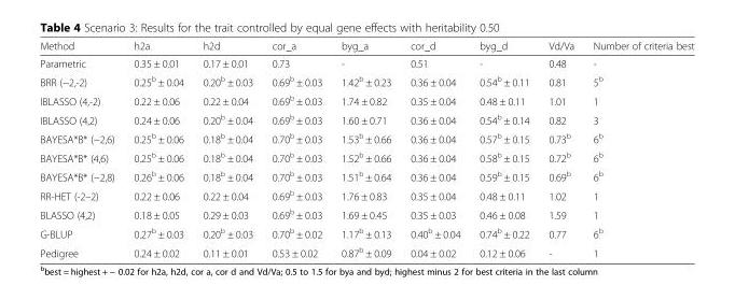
<table><thead><tr><td>Method</td><td>h2a</td><td>h2d</td><td>cor_a</td><td>byg_a</td><td>cor_d</td><td>byg_d</td><td>Vd/Va</td><td>Number of criteria best</td></tr></thead><tbody><tr><td>Parametric</td><td>0.35 ± 0.01</td><td>0.17 ± 0.01</td><td>0.73</td><td>-</td><td>0.51</td><td>-</td><td>0.48</td><td>-</td></tr><tr><td>BRR (−2,-2)</td><td>0.25<sup>b</sup> ± 0.04</td><td>0.20<sup>b</sup> ± 0.03</td><td>0.69<sup>b</sup> ± 0.03</td><td>1.42<sup>b</sup> ± 0.23</td><td>0.36 ± 0.04</td><td>0.54<sup>b</sup> ± 0.11</td><td>0.81</td><td>5<sup>b</sup></td></tr><tr><td>IBLASSO (4,-2)</td><td>0.22 ± 0.06</td><td>0.22 ± 0.04</td><td>0.69<sup>b</sup> ± 0.03</td><td>1.74 ± 0.82</td><td>0.35 ± 0.04</td><td>0.48 ± 0.11</td><td>1.01</td><td>1</td></tr><tr><td>IBLASSO (4,2)</td><td>0.24 ± 0.06</td><td>0.20<sup>b</sup> ± 0.04</td><td>0.69<sup>b</sup> ± 0.03</td><td>1.60 ± 0.71</td><td>0.36 ± 0.04</td><td>0.54<sup>b</sup> ± 0.14</td><td>0.82</td><td>3</td></tr><tr><td>BAYESA*B* (−2,6)</td><td>0.25<sup>b</sup> ± 0.06</td><td>0.18<sup>b</sup> ± 0.04</td><td>0.70<sup>b</sup> ± 0.03</td><td>1.53<sup>b</sup> ± 0.66</td><td>0.36 ± 0.04</td><td>0.57<sup>b</sup> ± 0.15</td><td>0.73<sup>b</sup></td><td>6<sup>b</sup></td></tr><tr><td>BAYESA*B* (4,6)</td><td>0.25<sup>b</sup> ± 0.06</td><td>0.18<sup>b</sup> ± 0.04</td><td>0.70<sup>b</sup> ± 0.03</td><td>1.52<sup>b</sup> ± 0.66</td><td>0.36 ± 0.04</td><td>0.58<sup>b</sup> ± 0.15</td><td>0.72<sup>b</sup></td><td>6<sup>b</sup></td></tr><tr><td>BAYESA*B* (−2,8)</td><td>0.26<sup>b</sup> ± 0.06</td><td>0.18<sup>b</sup> ± 0.04</td><td>0.70<sup>b</sup> ± 0.03</td><td>1.51<sup>b</sup> ± 0.64</td><td>0.36 ± 0.04</td><td>0.59<sup>b</sup> ± 0.15</td><td>0.69<sup>b</sup></td><td>6<sup>b</sup></td></tr><tr><td>RR-HET (-2–2)</td><td>0.22 ± 0.06</td><td>0.22 ± 0.04</td><td>0.69<sup>b</sup> ± 0.03</td><td>1.76 ± 0.83</td><td>0.35 ± 0.04</td><td>0.48 ± 0.11</td><td>1.02</td><td>1</td></tr><tr><td>BLASSO (4,2)</td><td>0.18 ± 0.05</td><td>0.29 ± 0.03</td><td>0.69<sup>b</sup> ± 0.03</td><td>1.69 ± 0.45</td><td>0.35 ± 0.03</td><td>0.46 ± 0.08</td><td>1.59</td><td>1</td></tr><tr><td>G-BLUP</td><td>0.27<sup>b</sup> ± 0.03</td><td>0.20<sup>b</sup> ± 0.03</td><td>0.70<sup>b</sup> ± 0.02</td><td>1.17<sup>b</sup> ± 0.13</td><td>0.40<sup>b</sup> ± 0.04</td><td>0.74<sup>b</sup> ± 0.22</td><td>0.77</td><td>6<sup>b</sup></td></tr><tr><td>Pedigree</td><td>0.24 ± 0.02</td><td>0.11 ± 0.01</td><td>0.53 ± 0.02</td><td>0.87<sup>b</sup> ± 0.09</td><td>0.04 ± 0.02</td><td>0.12 ± 0.06</td><td>-</td><td>1</td></tr></tbody></table>